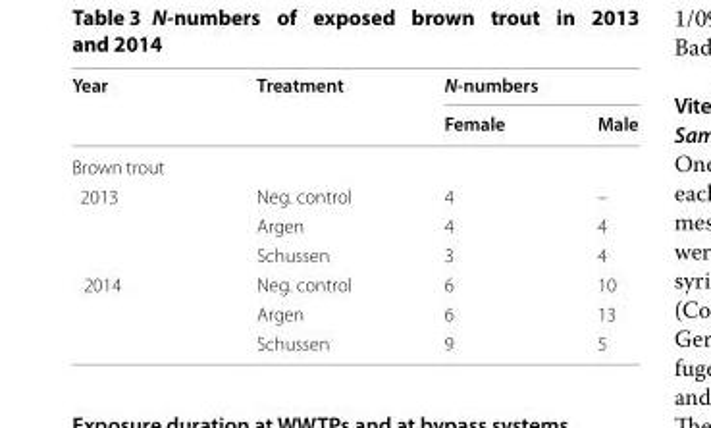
<table><thead><tr><td rowspan="2">Year</td><td rowspan="2">Treatment</td><td colspan="2">N-numbers</td></tr><tr><td>Female</td><td>Male</td></tr></thead><tbody><tr><td colspan="4">Brown trout</td></tr><tr><td rowspan="3">2013</td><td>Neg. control</td><td>4</td><td>–</td></tr><tr><td>Argen</td><td>4</td><td>4</td></tr><tr><td>Schussen</td><td>3</td><td>4</td></tr><tr><td rowspan="3">2014</td><td>Neg. control</td><td>6</td><td>10</td></tr><tr><td>Argen</td><td>6</td><td>13</td></tr><tr><td>Schussen</td><td>9</td><td>5</td></tr></tbody></table>